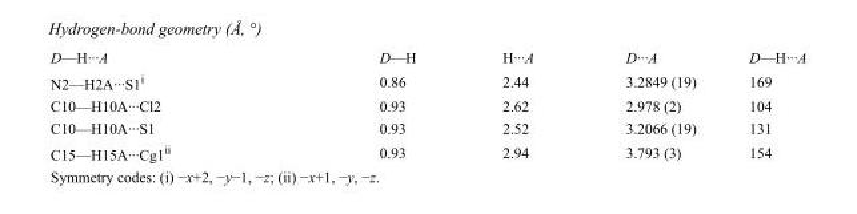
<table><tbody><tr><td>D—H···A</td><td>D—H</td><td>H···A</td><td>D···A</td><td>D—H···A</td></tr><tr><td>N2—H2A···S1<sup>i</sup></td><td>0.86</td><td>2.44</td><td>3.2849 (19)</td><td>169</td></tr><tr><td>C10—H10A···Cl2</td><td>0.93</td><td>2.62</td><td>2.978 (2)</td><td>104</td></tr><tr><td>C10—H10A···S1</td><td>0.93</td><td>2.52</td><td>3.2066 (19)</td><td>131</td></tr><tr><td>C15—H15A···Cg1<sup>ii</sup></td><td>0.93</td><td>2.94</td><td>3.793 (3)</td><td>154</td></tr></tbody></table>